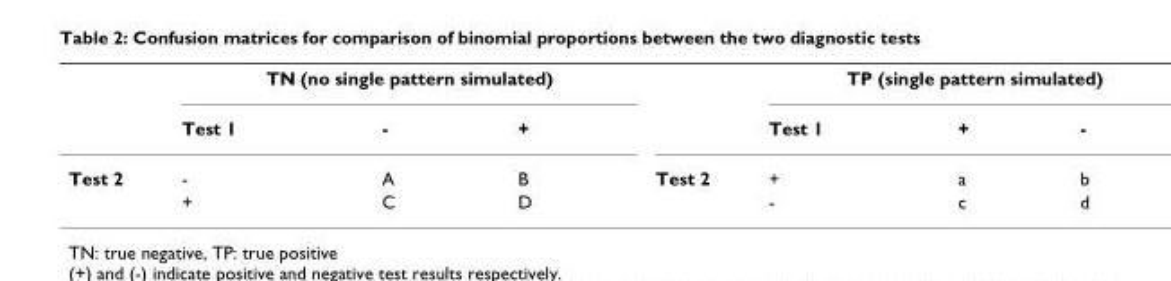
<table><thead><tr><td rowspan="2"></td><td colspan="3">TN (no single pattern simulated)</td><td rowspan="2"></td><td colspan="3">TP (single pattern simulated)</td></tr><tr><td>Test 1</td><td>-</td><td>+</td><td>Test 1</td><td>+</td><td>-</td></tr></thead><tbody><tr><td rowspan="2">Test 2</td><td>-</td><td>A</td><td>B</td><td>Test 2</td><td>+</td><td>a</td><td>b</td></tr><tr><td>+</td><td>C</td><td>D</td><td></td><td>-</td><td>c</td><td>d</td></tr></tbody></table>